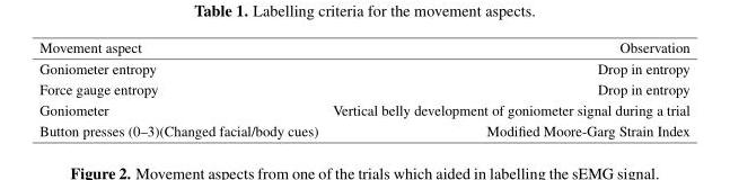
<table><thead><tr><td>Movement aspect</td><td>Observation</td></tr></thead><tbody><tr><td>Goniometer entropy</td><td>Drop in entropy</td></tr><tr><td>Force gauge entropy</td><td>Drop in entropy</td></tr><tr><td>Goniometer</td><td>Vertical belly development of goniometer signal during a trial</td></tr><tr><td>Button presses (0–3)(Changed facial/body cues)</td><td>Modified Moore-Garg Strain Index</td></tr></tbody></table>